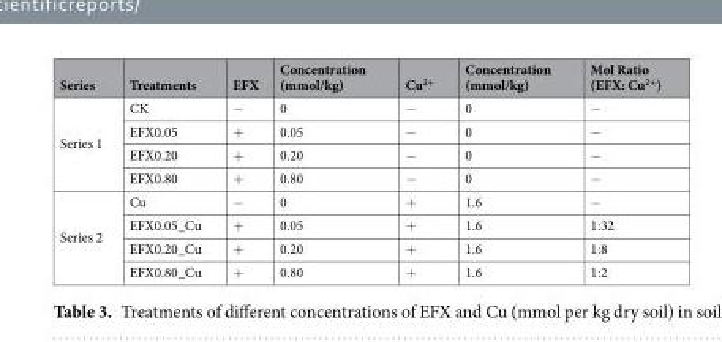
<table><thead><tr><td>Series</td><td>Treatments</td><td>EFX</td><td>Concentration (mmol/kg)</td><td>Cu<sup>2+</sup></td><td>Concentration (mmol/kg)</td><td>Mol Ratio (EFX: Cu<sup>2+</sup>)</td></tr></thead><tbody><tr><td rowspan="4">Series 1</td><td>CK</td><td>−</td><td>0</td><td>−</td><td>0</td><td>−</td></tr><tr><td>EFX0.05</td><td>+</td><td>0.05</td><td>−</td><td>0</td><td>−</td></tr><tr><td>EFX0.20</td><td>+</td><td>0.20</td><td>−</td><td>0</td><td>−</td></tr><tr><td>EFX0.80</td><td>+</td><td>0.80</td><td>−</td><td>0</td><td>−</td></tr><tr><td rowspan="4">Series 2</td><td>Cu</td><td>−</td><td>0</td><td>+</td><td>1.6</td><td>−</td></tr><tr><td>EFX0.05_Cu</td><td>+</td><td>0.05</td><td>+</td><td>1.6</td><td>1:32</td></tr><tr><td>EFX0.20_Cu</td><td>+</td><td>0.20</td><td>+</td><td>1.6</td><td>1:8</td></tr><tr><td>EFX0.80_Cu</td><td>+</td><td>0.80</td><td>+</td><td>1.6</td><td>1:2</td></tr></tbody></table>